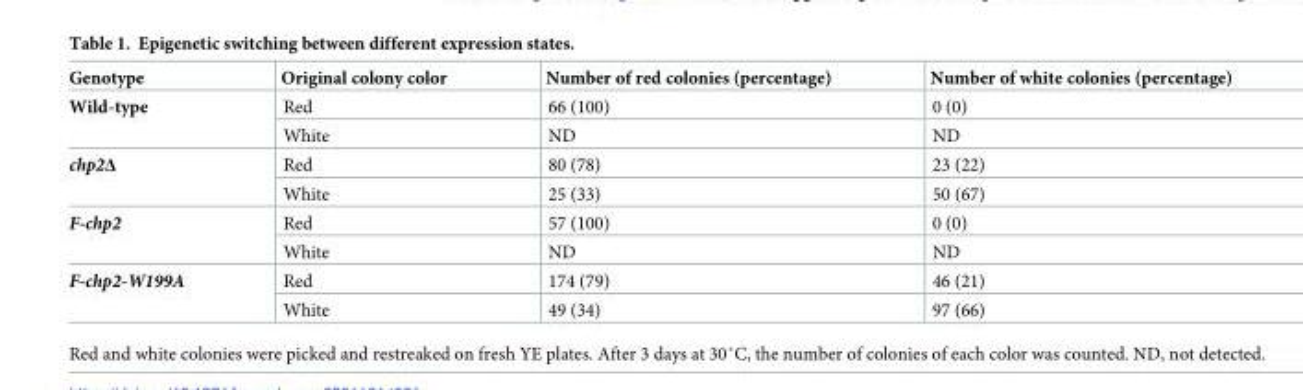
<table><thead><tr><td>Genotype</td><td>Original colony color</td><td>Number of red colonies (percentage)</td><td>Number of white colonies (percentage)</td></tr></thead><tbody><tr><td rowspan="2">Wild-type</td><td>Red</td><td>66 (100)</td><td>0 (0)</td></tr><tr><td>White</td><td>ND</td><td>ND</td></tr><tr><td rowspan="2">chp2Δ</td><td>Red</td><td>80 (78)</td><td>23 (22)</td></tr><tr><td>White</td><td>25 (33)</td><td>50 (67)</td></tr><tr><td rowspan="2">F-chp2</td><td>Red</td><td>57 (100)</td><td>0 (0)</td></tr><tr><td>White</td><td>ND</td><td>ND</td></tr><tr><td rowspan="2">F-chp2-W199A</td><td>Red</td><td>174 (79)</td><td>46 (21)</td></tr><tr><td>White</td><td>49 (34)</td><td>97 (66)</td></tr></tbody></table>